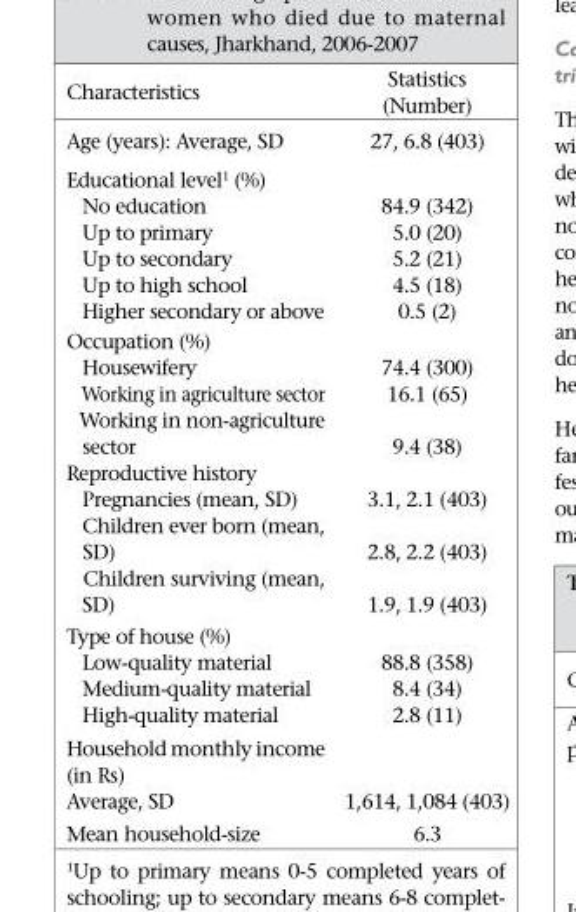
<table><thead><tr><td>Characteristics</td><td>Statistics (Number)</td></tr></thead><tbody><tr><td>Age (years): Average, SD</td><td>27, 6.8 (403)</td></tr><tr><td colspan="2">Educational level<sup>1</sup> (%)</td></tr><tr><td>No education</td><td>84.9 (342)</td></tr><tr><td>Up to primary</td><td>5.0 (20)</td></tr><tr><td>Up to secondary</td><td>5.2 (21)</td></tr><tr><td>Up to high school</td><td>4.5 (18)</td></tr><tr><td>Higher secondary or above</td><td>0.5 (2)</td></tr><tr><td colspan="2">Occupation (%)</td></tr><tr><td>Housewifery</td><td>74.4 (300)</td></tr><tr><td>Working in agriculture sector</td><td>16.1 (65)</td></tr><tr><td>Working in non-agriculture sector</td><td>9.4 (38)</td></tr><tr><td colspan="2">Reproductive history</td></tr><tr><td>Pregnancies (mean, SD)</td><td>3.1, 2.1 (403)</td></tr><tr><td>Children ever born (mean, SD)</td><td>2.8, 2.2 (403)</td></tr><tr><td>Children surviving (mean, SD)</td><td>1.9, 1.9 (403)</td></tr><tr><td colspan="2">Type of house (%)</td></tr><tr><td>Low-quality material</td><td>88.8 (358)</td></tr><tr><td>Medium-quality material</td><td>8.4 (34)</td></tr><tr><td>High-quality material</td><td>2.8 (11)</td></tr><tr><td colspan="2">Household monthly income (in Rs)</td></tr><tr><td>Average, SD</td><td>1,614, 1,084 (403)</td></tr><tr><td>Mean household-size</td><td>6.3</td></tr></tbody></table>